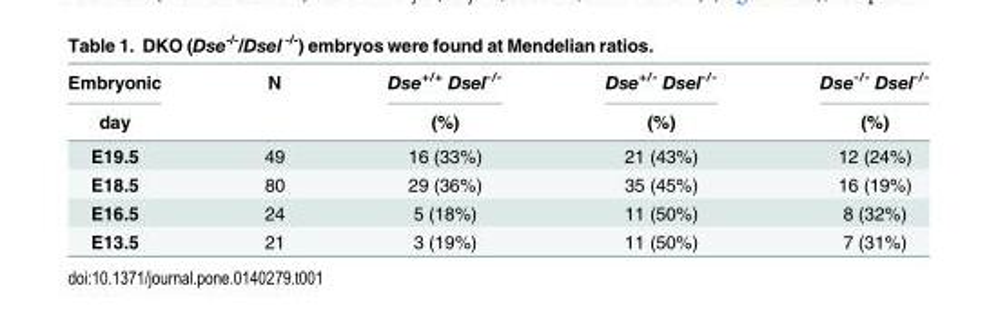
<table><thead><tr><td rowspan="2">Embryonic day</td><td rowspan="2">N</td><td rowspan="2">Dse<sup>+/+</sup> Dsel<sup>-/-</sup> (%)</td><td rowspan="2">Dse<sup>+/-</sup> Dsel<sup>-/-</sup> (%)</td><td rowspan="2">Dse<sup>-/-</sup> Dsel<sup>-/-</sup> (%)</td></tr><tr></tr></thead><tbody><tr><td>E19.5</td><td>49</td><td>16 (33%)</td><td>21 (43%)</td><td>12 (24%)</td></tr><tr><td>E18.5</td><td>80</td><td>29 (36%)</td><td>35 (45%)</td><td>16 (19%)</td></tr><tr><td>E16.5</td><td>24</td><td>5 (18%)</td><td>11 (50%)</td><td>8 (32%)</td></tr><tr><td>E13.5</td><td>21</td><td>3 (19%)</td><td>11 (50%)</td><td>7 (31%)</td></tr></tbody></table>